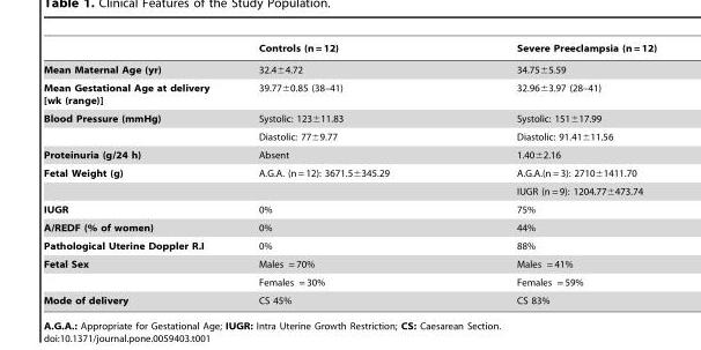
<table><thead><tr><td></td><td>Controls (n = 12)</td><td>Severe Preeclampsia (n = 12)</td></tr></thead><tbody><tr><td>Mean Maternal Age (yr)</td><td>32.4±4.72</td><td>34.75±5.59</td></tr><tr><td>Mean Gestational Age at delivery [wk (range)]</td><td>39.77±0.85 (38–41)</td><td>32.96±3.97 (28–41)</td></tr><tr><td rowspan="2">Blood Pressure (mmHg)</td><td>Systolic: 123±11.83</td><td>Systolic: 151±17.99</td></tr><tr><td>Diastolic: 77±9.77</td><td>Diastolic: 91.41±11.56</td></tr><tr><td>Proteinuria (g/24 h)</td><td>Absent</td><td>1.40±2.16</td></tr><tr><td rowspan="2">Fetal Weight (g)</td><td>A.G.A. (n = 12): 3671.5±345.29</td><td>A.G.A.(n = 3): 2710±1411.70</td></tr><tr><td></td><td>IUGR (n = 9): 1204.77±473.74</td></tr><tr><td>IUGR</td><td>0%</td><td>75%</td></tr><tr><td>A/REDF (% of women)</td><td>0%</td><td>44%</td></tr><tr><td>Pathological Uterine Doppler R.I</td><td>0%</td><td>88%</td></tr><tr><td rowspan="2">Fetal Sex</td><td>Males = 70%</td><td>Males = 41%</td></tr><tr><td>Females = 30%</td><td>Females = 59%</td></tr><tr><td>Mode of delivery</td><td>CS 45%</td><td>CS 83%</td></tr></tbody></table>